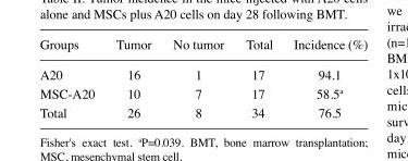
<table><thead><tr><td>Groups</td><td>Tumor</td><td>No tumor</td><td>Total</td><td>Incidence (%)</td></tr></thead><tbody><tr><td>A20</td><td>16</td><td>1</td><td>17</td><td>94.1</td></tr><tr><td>MSC-A20</td><td>10</td><td>7</td><td>17</td><td>58.5<sup>a</sup></td></tr><tr><td>Total</td><td>26</td><td>8</td><td>34</td><td>76.5</td></tr></tbody></table>